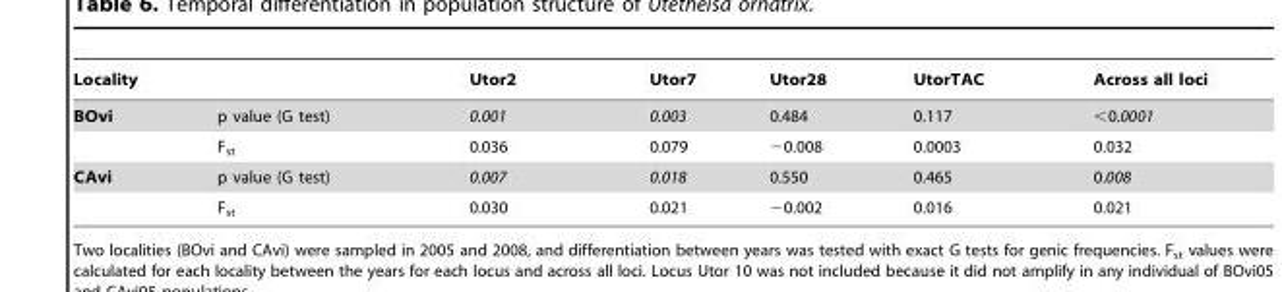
<table><thead><tr><td>Locality</td><td></td><td>Utor2</td><td>Utor7</td><td>Utor28</td><td>UtorTAC</td><td>Across all loci</td></tr></thead><tbody><tr><td rowspan="2">BOvi</td><td>p value (G test)</td><td>0.001</td><td>0.003</td><td>0.484</td><td>0.117</td><td>&lt;0.0001</td></tr><tr><td>F<sub>st</sub></td><td>0.036</td><td>0.079</td><td>−0.008</td><td>0.0003</td><td>0.032</td></tr><tr><td rowspan="2">CAvi</td><td>p value (G test)</td><td>0.007</td><td>0.018</td><td>0.550</td><td>0.465</td><td>0.008</td></tr><tr><td>F<sub>st</sub></td><td>0.030</td><td>0.021</td><td>−0.002</td><td>0.016</td><td>0.021</td></tr></tbody></table>